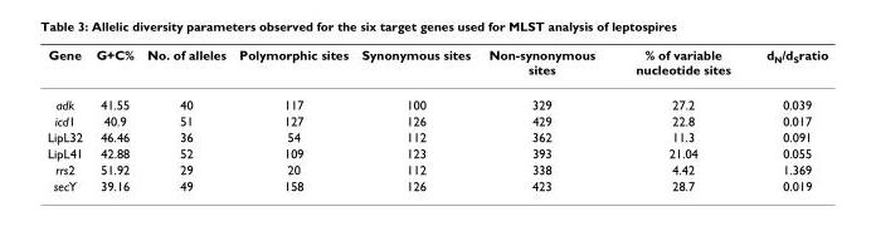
<table><thead><tr><td>Gene</td><td>G+C%</td><td>No. of alleles</td><td>Polymorphic sites</td><td>Synonymous sites</td><td>Non-synonymous sites</td><td>% of variable nucleotide sites</td><td>d<sub>N</sub>/d<sub>S</sub>ratio</td></tr></thead><tbody><tr><td>adk</td><td>41.55</td><td>40</td><td>117</td><td>100</td><td>329</td><td>27.2</td><td>0.039</td></tr><tr><td>icd1</td><td>40.9</td><td>51</td><td>127</td><td>126</td><td>429</td><td>22.8</td><td>0.017</td></tr><tr><td>LipL32</td><td>46.46</td><td>36</td><td>54</td><td>112</td><td>362</td><td>11.3</td><td>0.091</td></tr><tr><td>LipL41</td><td>42.88</td><td>52</td><td>109</td><td>123</td><td>393</td><td>21.04</td><td>0.055</td></tr><tr><td>rrs2</td><td>51.92</td><td>29</td><td>20</td><td>112</td><td>338</td><td>4.42</td><td>1.369</td></tr><tr><td>secY</td><td>39.16</td><td>49</td><td>158</td><td>126</td><td>423</td><td>28.7</td><td>0.019</td></tr></tbody></table>